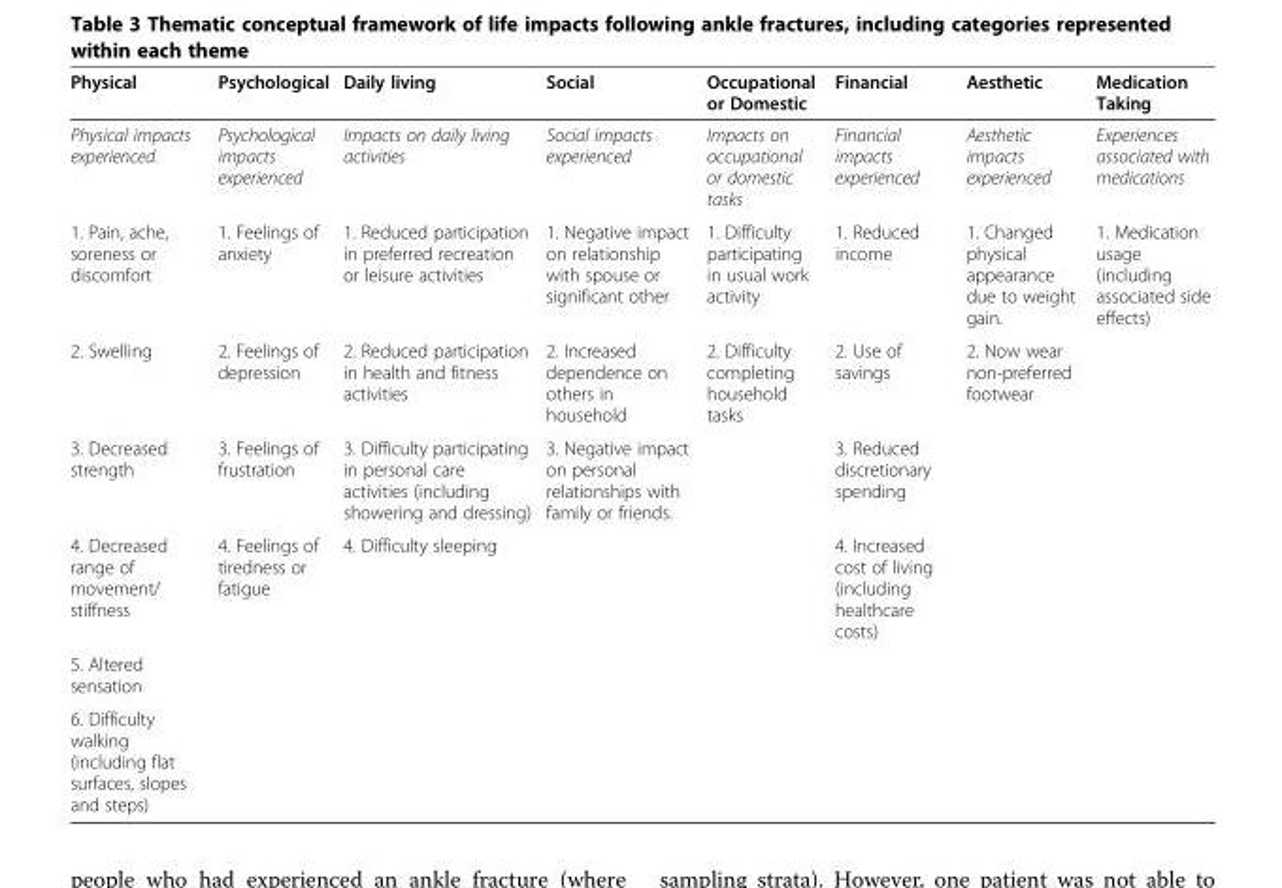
<table><thead><tr><td>Physical</td><td>Psychological</td><td>Daily living</td><td>Social</td><td>Occupational or Domestic</td><td>Financial</td><td>Aesthetic</td><td>Medication Taking</td></tr></thead><tbody><tr><td>Physical impacts experienced</td><td>Psychological impacts experienced</td><td>Impacts on daily living activities</td><td>Social impacts experienced</td><td>Impacts on occupational or domestic tasks</td><td>Financial impacts experienced</td><td>Aesthetic impacts experienced</td><td>Experiences associated with medications</td></tr><tr><td>1. Pain, ache, soreness or discomfort</td><td>1. Feelings of anxiety</td><td>1. Reduced participation in preferred recreation or leisure activities</td><td>1. Negative impact on relationship with spouse or significant other</td><td>1. Difficulty participating in usual work activity</td><td>1. Reduced income</td><td>1. Changed physical appearance due to weight gain.</td><td>1. Medication usage (including associated side effects)</td></tr><tr><td>2. Swelling</td><td>2. Feelings of depression</td><td>2. Reduced participation in health and fitness activities</td><td>2. Increased dependence on others in household</td><td>2. Difficulty completing household tasks</td><td>2. Use of savings</td><td>2. Now wear non-preferred footwear</td><td></td></tr><tr><td>3. Decreased strength</td><td>3. Feelings of frustration</td><td>3. Difficulty participating in personal care activities (including showering and dressing)</td><td>3. Negative impact on personal relationships with family or friends.</td><td></td><td>3. Reduced discretionary spending</td><td></td><td></td></tr><tr><td>4. Decreased range of movement/ stiffness</td><td>4. Feelings of tiredness or fatigue</td><td>4. Difficulty sleeping</td><td></td><td></td><td>4. Increased cost of living (including healthcare costs)</td><td></td><td></td></tr><tr><td colspan="8">5. Altered sensation</td></tr><tr><td>6. Difficulty walking (including flat surfaces, slopes and steps)</td><td></td><td></td><td></td><td></td><td></td><td></td><td></td></tr></tbody></table>